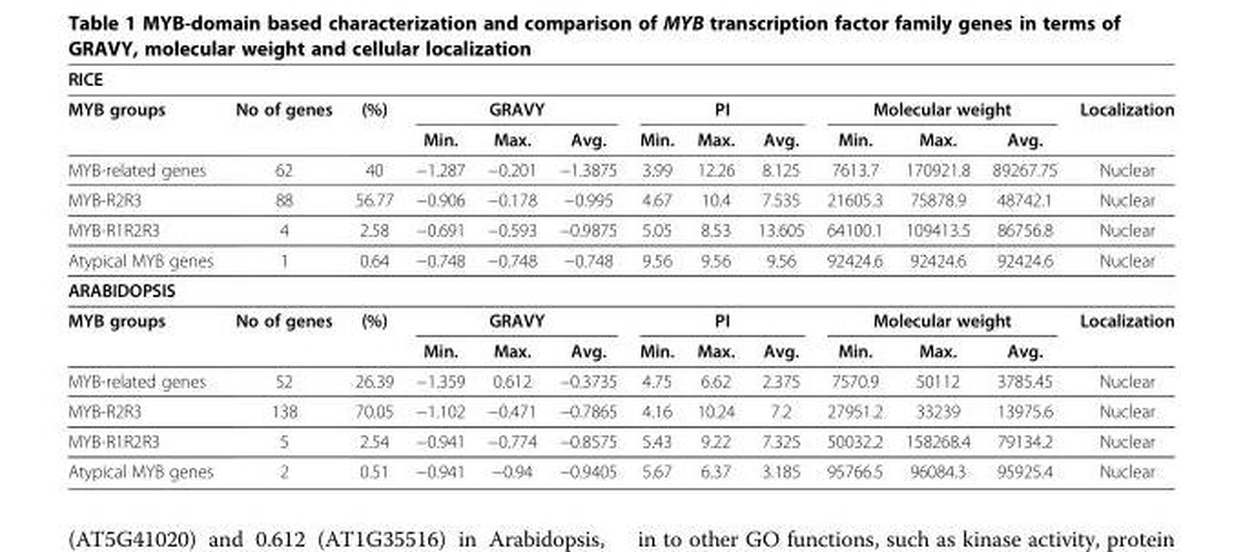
<table><thead><tr><td colspan="13">RICE</td></tr><tr><td rowspan="2">MYB groups</td><td rowspan="2">No of genes</td><td rowspan="2">(%)</td><td colspan="3">GRAVY</td><td colspan="3">PI</td><td colspan="3">Molecular weight</td><td rowspan="2">Localization</td></tr><tr><td>Min.</td><td>Max.</td><td>Avg.</td><td>Min.</td><td>Max.</td><td>Avg.</td><td>Min.</td><td>Max.</td><td>Avg.</td></tr></thead><tbody><tr><td>MYB-related genes</td><td>62</td><td>40</td><td>−1.287</td><td>−0.201</td><td>−1.3875</td><td>3.99</td><td>12.26</td><td>8.125</td><td>7613.7</td><td>170921.8</td><td>89267.75</td><td>Nuclear</td></tr><tr><td>MYB-R2R3</td><td>88</td><td>56.77</td><td>−0.906</td><td>−0.178</td><td>−0.995</td><td>4.67</td><td>10.4</td><td>7.535</td><td>21605.3</td><td>75878.9</td><td>48742.1</td><td>Nuclear</td></tr><tr><td>MYB-R1R2R3</td><td>4</td><td>2.58</td><td>−0.691</td><td>−0.593</td><td>−0.9875</td><td>5.05</td><td>8.53</td><td>13.605</td><td>64100.1</td><td>109413.5</td><td>86756.8</td><td>Nuclear</td></tr><tr><td>Atypical MYB genes</td><td>1</td><td>0.64</td><td>−0.748</td><td>−0.748</td><td>−0.748</td><td>9.56</td><td>9.56</td><td>9.56</td><td>92424.6</td><td>92424.6</td><td>92424.6</td><td>Nuclear</td></tr><tr><td colspan="13">ARABIDOPSIS</td></tr><tr><td rowspan="2">MYB groups</td><td rowspan="2">No of genes</td><td rowspan="2">(%)</td><td colspan="3">GRAVY</td><td colspan="3">PI</td><td colspan="3">Molecular weight</td><td rowspan="2">Localization</td></tr><tr><td>Min.</td><td>Max.</td><td>Avg.</td><td>Min.</td><td>Max.</td><td>Avg.</td><td>Min.</td><td>Max.</td><td>Avg.</td></tr><tr><td>MYB-related genes</td><td>52</td><td>26.39</td><td>−1.359</td><td>0.612</td><td>−0.3735</td><td>4.75</td><td>6.62</td><td>2.375</td><td>7570.9</td><td>50112</td><td>3785.45</td><td>Nuclear</td></tr><tr><td>MYB-R2R3</td><td>138</td><td>70.05</td><td>−1.102</td><td>−0.471</td><td>−0.7865</td><td>4.16</td><td>10.24</td><td>7.2</td><td>27951.2</td><td>33239</td><td>13975.6</td><td>Nuclear</td></tr><tr><td>MYB-R1R2R3</td><td>5</td><td>2.54</td><td>−0.941</td><td>−0.774</td><td>−0.8575</td><td>5.43</td><td>9.22</td><td>7.325</td><td>50032.2</td><td>158268.4</td><td>79134.2</td><td>Nuclear</td></tr><tr><td>Atypical MYB genes</td><td>2</td><td>0.51</td><td>−0.941</td><td>−0.94</td><td>−0.9405</td><td>5.67</td><td>6.37</td><td>3.185</td><td>95766.5</td><td>96084.3</td><td>95925.4</td><td>Nuclear</td></tr></tbody></table>